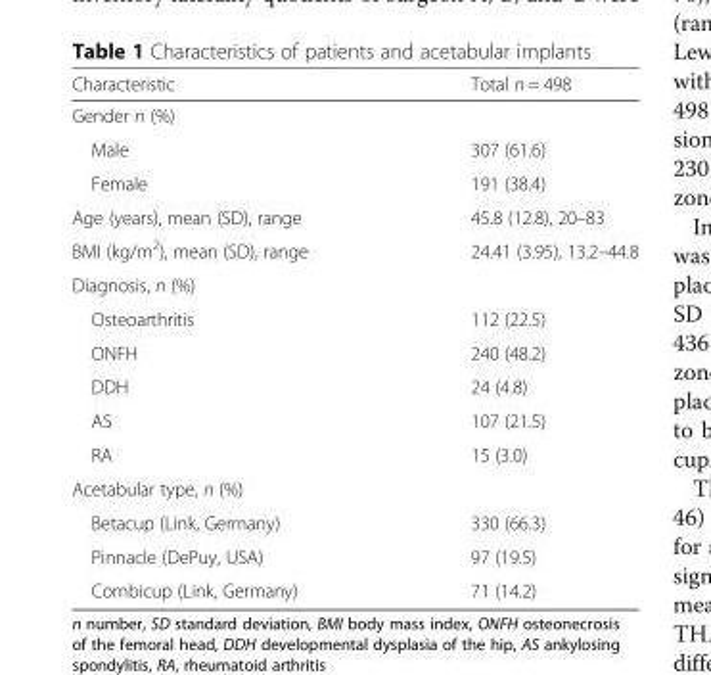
<table><thead><tr><td>Characteristic</td><td>Total n = 498</td></tr></thead><tbody><tr><td colspan="2">Gender n (%)</td></tr><tr><td>Male</td><td>307 (61.6)</td></tr><tr><td>Female</td><td>191 (38.4)</td></tr><tr><td>Age (years), mean (SD), range</td><td>45.8 (12.8), 20–83</td></tr><tr><td>BMI (kg/m<sup>2</sup>), mean (SD), range</td><td>24.41 (3.95), 13.2–44.8</td></tr><tr><td colspan="2">Diagnosis, n (%)</td></tr><tr><td>Osteoarthritis</td><td>112 (22.5)</td></tr><tr><td>ONFH</td><td>240 (48.2)</td></tr><tr><td>DDH</td><td>24 (4.8)</td></tr><tr><td>AS</td><td>107 (21.5)</td></tr><tr><td>RA</td><td>15 (3.0)</td></tr><tr><td colspan="2">Acetabular type, n (%)</td></tr><tr><td>Betacup (Link, Germany)</td><td>330 (66.3)</td></tr><tr><td>Pinnacle (DePuy, USA)</td><td>97 (19.5)</td></tr><tr><td>Combicup (Link, Germany)</td><td>71 (14.2)</td></tr></tbody></table>